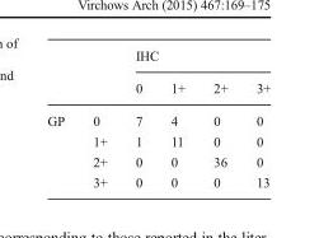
<table><thead><tr><td rowspan="2"></td><td rowspan="2"></td><td colspan="4">IHC</td></tr><tr><td>0</td><td>1+</td><td>2+</td><td>3+</td></tr></thead><tbody><tr><td rowspan="4">GP</td><td>0</td><td>7</td><td>4</td><td>0</td><td>0</td></tr><tr><td>1+</td><td>1</td><td>11</td><td>0</td><td>0</td></tr><tr><td>2+</td><td>0</td><td>0</td><td>36</td><td>0</td></tr><tr><td>3+</td><td>0</td><td>0</td><td>0</td><td>13</td></tr></tbody></table>